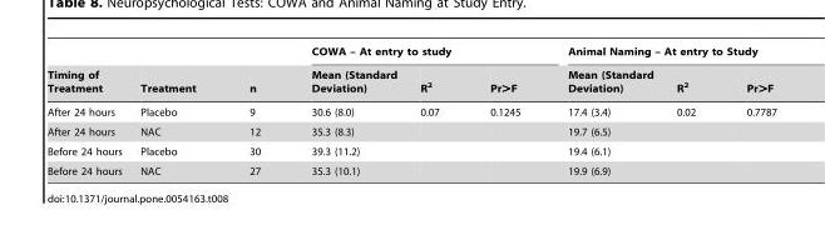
<table><thead><tr><td rowspan="2">Timing of Treatment</td><td rowspan="2">Treatment</td><td rowspan="2">n</td><td colspan="3">COWA – At entry to study</td><td colspan="3">Animal Naming – At entry to Study</td></tr><tr><td>Mean (Standard Deviation)</td><td>R<sup>2</sup></td><td>Pr&gt;F</td><td>Mean (Standard Deviation)</td><td>R<sup>2</sup></td><td>Pr&gt;F</td></tr></thead><tbody><tr><td>After 24 hours</td><td>Placebo</td><td>9</td><td>30.6 (8.0)</td><td>0.07</td><td>0.1245</td><td>17.4 (3.4)</td><td>0.02</td><td>0.7787</td></tr><tr><td>After 24 hours</td><td>NAC</td><td>12</td><td>35.3 (8.3)</td><td></td><td></td><td>19.7 (6.5)</td><td></td><td></td></tr><tr><td>Before 24 hours</td><td>Placebo</td><td>30</td><td>39.3 (11.2)</td><td></td><td></td><td>19.4 (6.1)</td><td></td><td></td></tr><tr><td>Before 24 hours</td><td>NAC</td><td>27</td><td>35.3 (10.1)</td><td></td><td></td><td>19.9 (6.9)</td><td></td><td></td></tr></tbody></table>